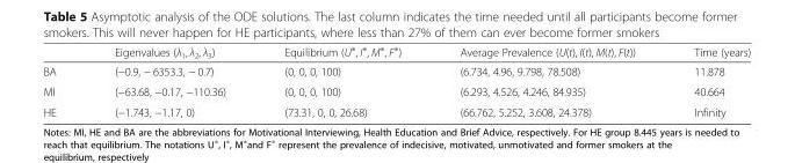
<table><thead><tr><td></td><td>Eigenvalues (λ<sub>1</sub>, λ<sub>2</sub>, λ<sub>3</sub>)</td><td>Equilibrium (U∗, I∗, M∗, F∗)</td><td>Average Prevalence (U(t), I(t), M(t), F(t))</td><td>Time (years)</td></tr></thead><tbody><tr><td>BA</td><td>(−0.9, − 6353.3, − 0.7)</td><td>(0, 0, 0, 100)</td><td>(6.734, 4.96, 9.798, 78.508)</td><td>11.878</td></tr><tr><td>MI</td><td>(−63.68, −0.17, −110.36)</td><td>(0, 0, 0, 100)</td><td>(6.293, 4.526, 4.246, 84.935)</td><td>40.664</td></tr><tr><td>HE</td><td>(−1.743, −1.17, 0)</td><td>(73.31, 0, 0, 26.68)</td><td>(66.762, 5.252, 3.608, 24.378)</td><td>Infinity</td></tr></tbody></table>